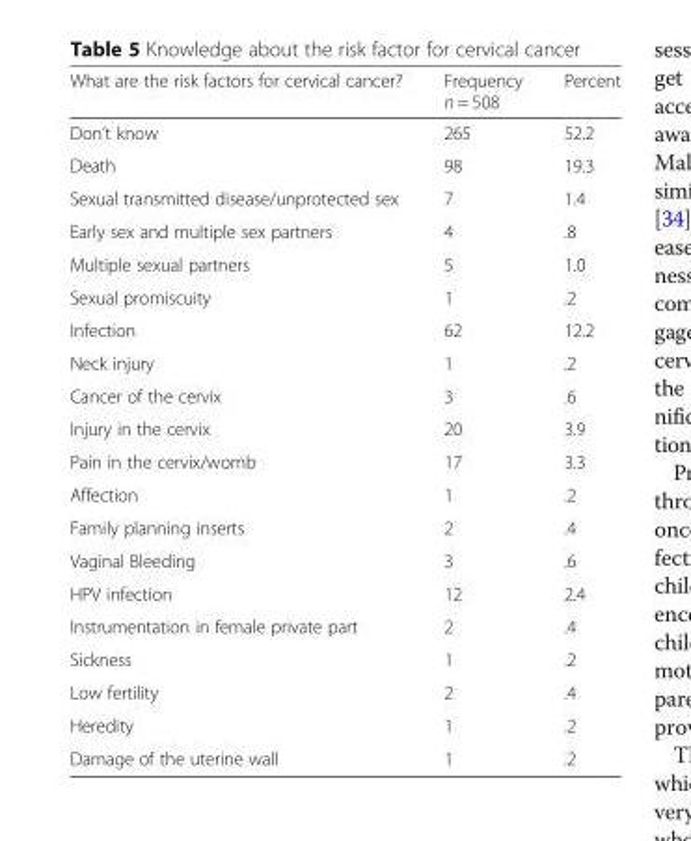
<table><thead><tr><td>What are the risk factors for cervical cancer?</td><td>Frequency n = 508</td><td>Percent</td></tr></thead><tbody><tr><td>Don’t know</td><td>265</td><td>52.2</td></tr><tr><td>Death</td><td>98</td><td>19.3</td></tr><tr><td>Sexual transmitted disease/unprotected sex</td><td>7</td><td>1.4</td></tr><tr><td>Early sex and multiple sex partners</td><td>4</td><td>.8</td></tr><tr><td>Multiple sexual partners</td><td>5</td><td>1.0</td></tr><tr><td>Sexual promiscuity</td><td>1</td><td>.2</td></tr><tr><td>Infection</td><td>62</td><td>12.2</td></tr><tr><td>Neck injury</td><td>1</td><td>.2</td></tr><tr><td>Cancer of the cervix</td><td>3</td><td>.6</td></tr><tr><td>Injury in the cervix</td><td>20</td><td>3.9</td></tr><tr><td>Pain in the cervix/womb</td><td>17</td><td>3.3</td></tr><tr><td>Affection</td><td>1</td><td>.2</td></tr><tr><td>Family planning inserts</td><td>2</td><td>.4</td></tr><tr><td>Vaginal Bleeding</td><td>3</td><td>.6</td></tr><tr><td>HPV infection</td><td>12</td><td>2.4</td></tr><tr><td>Instrumentation in female private part</td><td>2</td><td>.4</td></tr><tr><td>Sickness</td><td>1</td><td>.2</td></tr><tr><td>Low fertility</td><td>2</td><td>.4</td></tr><tr><td>Heredity</td><td>1</td><td>.2</td></tr><tr><td>Damage of the uterine wall</td><td>1</td><td>.2</td></tr></tbody></table>